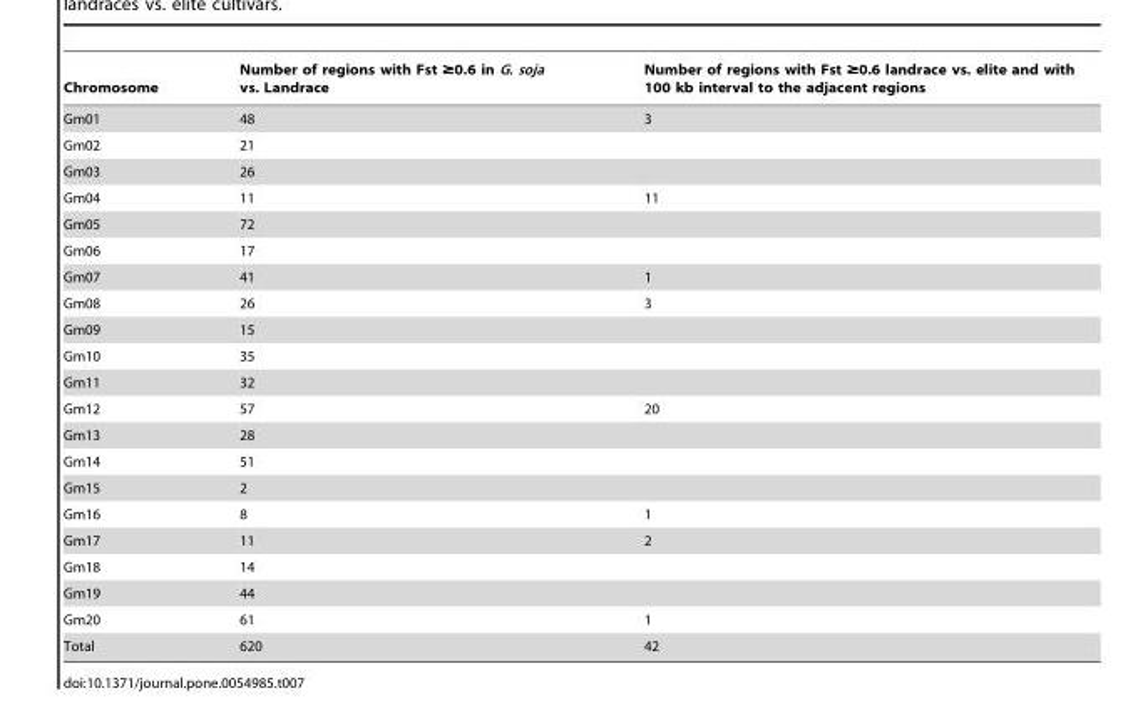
<table><thead><tr><td>Chromosome</td><td>Number of regions with Fst ≥0.6 in G. soja vs. Landrace</td><td>Number of regions with Fst ≥0.6 landrace vs. elite and with 100 kb interval to the adjacent regions</td></tr></thead><tbody><tr><td>Gm01</td><td>48</td><td>3</td></tr><tr><td>Gm02</td><td>21</td><td></td></tr><tr><td>Gm03</td><td>26</td><td></td></tr><tr><td>Gm04</td><td>11</td><td>11</td></tr><tr><td>Gm05</td><td>72</td><td></td></tr><tr><td>Gm06</td><td>17</td><td></td></tr><tr><td>Gm07</td><td>41</td><td>1</td></tr><tr><td>Gm08</td><td>26</td><td>3</td></tr><tr><td>Gm09</td><td>15</td><td></td></tr><tr><td>Gm10</td><td>35</td><td></td></tr><tr><td>Gm11</td><td>32</td><td></td></tr><tr><td>Gm12</td><td>57</td><td>20</td></tr><tr><td>Gm13</td><td>28</td><td></td></tr><tr><td>Gm14</td><td>51</td><td></td></tr><tr><td>Gm15</td><td>2</td><td></td></tr><tr><td>Gm16</td><td>8</td><td>1</td></tr><tr><td>Gm17</td><td>11</td><td>2</td></tr><tr><td>Gm18</td><td>14</td><td></td></tr><tr><td>Gm19</td><td>44</td><td></td></tr><tr><td>Gm20</td><td>61</td><td>1</td></tr><tr><td>Total</td><td>620</td><td>42</td></tr></tbody></table>